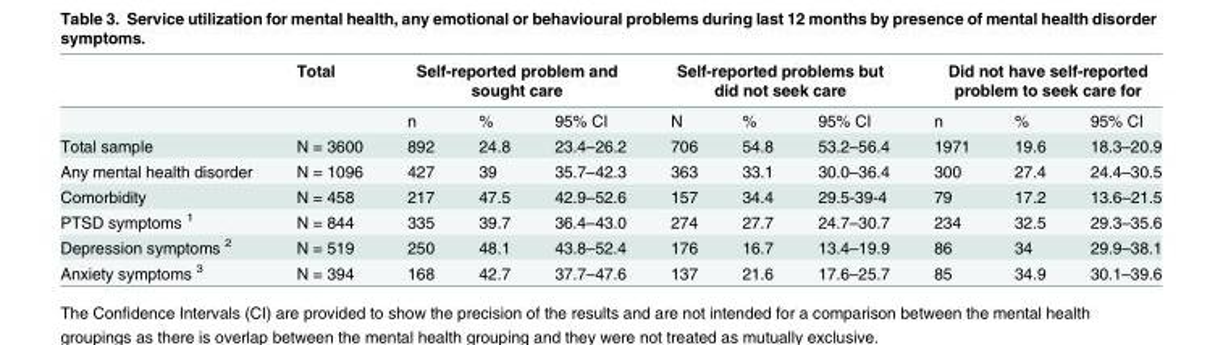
<table><thead><tr><td rowspan="2"></td><td rowspan="2">Total</td><td colspan="3">Self-reported problem and sought care</td><td colspan="3">Self-reported problems but did not seek care</td><td colspan="3">Did not have self-reported problem to seek care for</td></tr><tr><td>n</td><td>%</td><td>95% CI</td><td>N</td><td>%</td><td>95% CI</td><td>n</td><td>%</td><td>95% CI</td></tr></thead><tbody><tr><td>Total sample</td><td>N = 3600</td><td>892</td><td>24.8</td><td>23.4–26.2</td><td>706</td><td>54.8</td><td>53.2–56.4</td><td>1971</td><td>19.6</td><td>18.3–20.9</td></tr><tr><td>Any mental health disorder</td><td>N = 1096</td><td>427</td><td>39</td><td>35.7–42.3</td><td>363</td><td>33.1</td><td>30.0–36.4</td><td>300</td><td>27.4</td><td>24.4–30.5</td></tr><tr><td>Comorbidity</td><td>N = 458</td><td>217</td><td>47.5</td><td>42.9–52.6</td><td>157</td><td>34.4</td><td>29.5-39-4</td><td>79</td><td>17.2</td><td>13.6–21.5</td></tr><tr><td>PTSD symptoms <sup>1</sup></td><td>N = 844</td><td>335</td><td>39.7</td><td>36.4–43.0</td><td>274</td><td>27.7</td><td>24.7–30.7</td><td>234</td><td>32.5</td><td>29.3–35.6</td></tr><tr><td>Depression symptoms <sup>2</sup></td><td>N = 519</td><td>250</td><td>48.1</td><td>43.8–52.4</td><td>176</td><td>16.7</td><td>13.4–19.9</td><td>86</td><td>34</td><td>29.9–38.1</td></tr><tr><td>Anxiety symptoms <sup>3</sup></td><td>N = 394</td><td>168</td><td>42.7</td><td>37.7–47.6</td><td>137</td><td>21.6</td><td>17.6–25.7</td><td>85</td><td>34.9</td><td>30.1–39.6</td></tr></tbody></table>